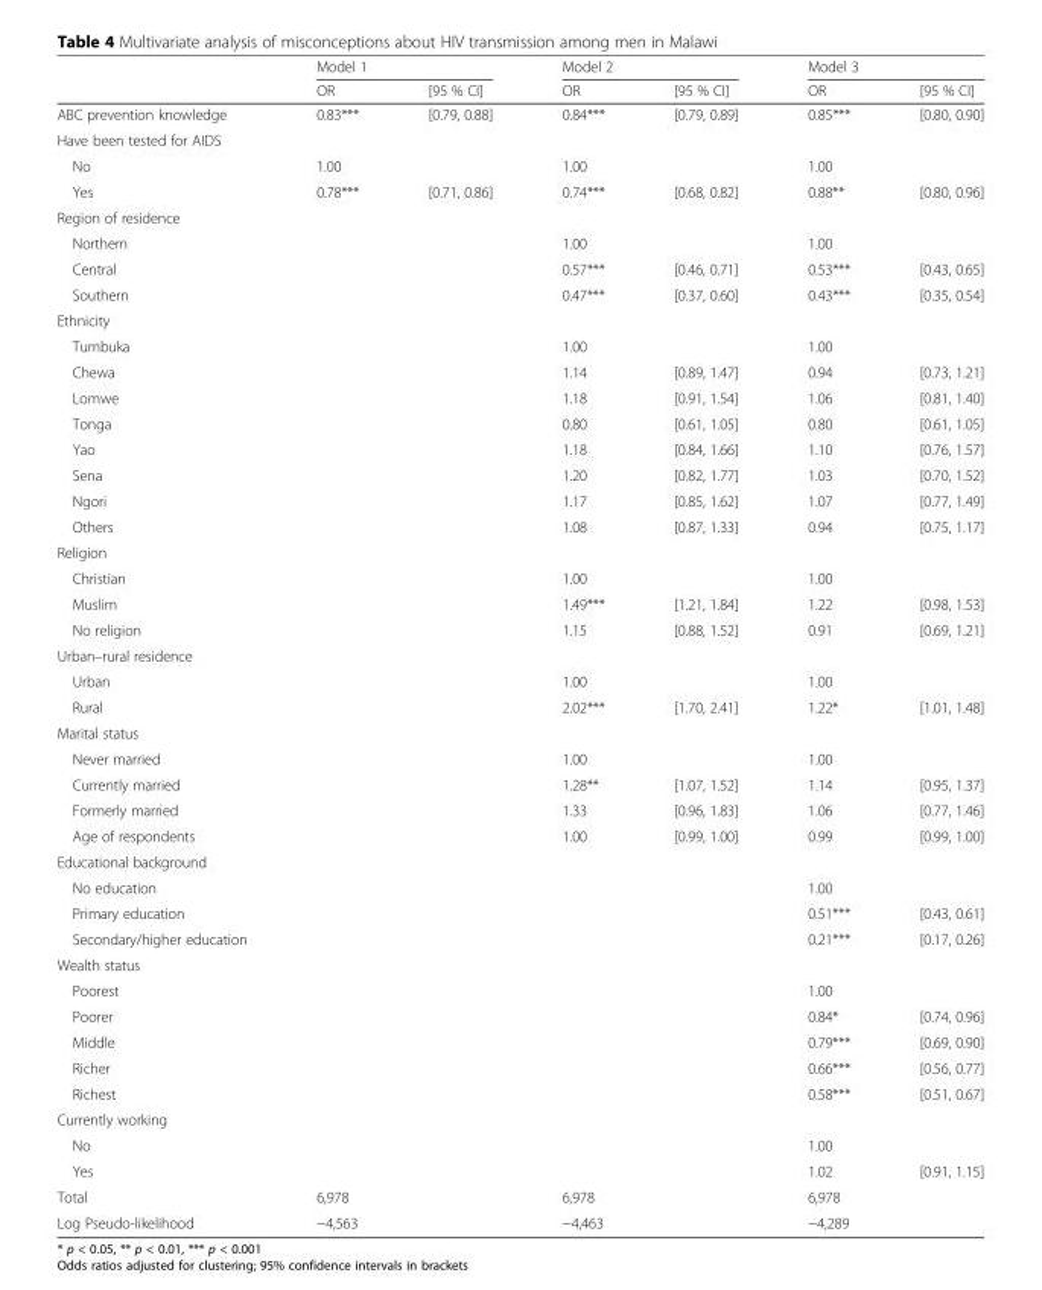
<table><thead><tr><td rowspan="2"></td><td colspan="2">Model 1</td><td colspan="2">Model 2</td><td colspan="2">Model 3</td></tr><tr><td>OR</td><td>[95 % CI]</td><td>OR</td><td>[95 % CI]</td><td>OR</td><td>[95 % CI]</td></tr></thead><tbody><tr><td>ABC prevention knowledge</td><td>0.83***</td><td>[0.79, 0.88]</td><td>0.84***</td><td>[0.79, 0.89]</td><td>0.85***</td><td>[0.80, 0.90]</td></tr><tr><td colspan="7">Have been tested for AIDS</td></tr><tr><td>No</td><td colspan="2">1.00</td><td colspan="2">1.00</td><td colspan="2">1.00</td></tr><tr><td>Yes</td><td>0.78***</td><td>[0.71, 0.86]</td><td>0.74***</td><td>[0.68, 0.82]</td><td>0.88**</td><td>[0.80, 0.96]</td></tr><tr><td colspan="7">Region of residence</td></tr><tr><td>Northern</td><td></td><td></td><td colspan="2">1.00</td><td colspan="2">1.00</td></tr><tr><td>Central</td><td></td><td></td><td>0.57***</td><td>[0.46, 0.71]</td><td>0.53***</td><td>[0.43, 0.65]</td></tr><tr><td>Southern</td><td></td><td></td><td>0.47***</td><td>[0.37, 0.60]</td><td>0.43***</td><td>[0.35, 0.54]</td></tr><tr><td colspan="7">Ethnicity</td></tr><tr><td>Tumbuka</td><td></td><td></td><td colspan="2">1.00</td><td colspan="2">1.00</td></tr><tr><td>Chewa</td><td></td><td></td><td>1.14</td><td>[0.89, 1.47]</td><td>0.94</td><td>[0.73, 1.21]</td></tr><tr><td>Lomwe</td><td></td><td></td><td>1.18</td><td>[0.91, 1.54]</td><td>1.06</td><td>[0.81, 1.40]</td></tr><tr><td>Tonga</td><td></td><td></td><td>0.80</td><td>[0.61, 1.05]</td><td>0.80</td><td>[0.61, 1.05]</td></tr><tr><td>Yao</td><td></td><td></td><td>1.18</td><td>[0.84, 1.66]</td><td>1.10</td><td>[0.76, 1.57]</td></tr><tr><td>Sena</td><td></td><td></td><td>1.20</td><td>[0.82, 1.77]</td><td>1.03</td><td>[0.70, 1.52]</td></tr><tr><td>Ngori</td><td></td><td></td><td>1.17</td><td>[0.85, 1.62]</td><td>1.07</td><td>[0.77, 1.49]</td></tr><tr><td>Others</td><td></td><td></td><td>1.08</td><td>[0.87, 1.33]</td><td>0.94</td><td>[0.75, 1.17]</td></tr><tr><td colspan="7">Religion</td></tr><tr><td>Christian</td><td></td><td></td><td colspan="2">1.00</td><td colspan="2">1.00</td></tr><tr><td>Muslim</td><td></td><td></td><td>1.49***</td><td>[1.21, 1.84]</td><td>1.22</td><td>[0.98, 1.53]</td></tr><tr><td>No religion</td><td></td><td></td><td>1.15</td><td>[0.88, 1.52]</td><td>0.91</td><td>[0.69, 1.21]</td></tr><tr><td colspan="7">Urban–rural residence</td></tr><tr><td>Urban</td><td></td><td></td><td colspan="2">1.00</td><td colspan="2">1.00</td></tr><tr><td>Rural</td><td></td><td></td><td>2.02***</td><td>[1.70, 2.41]</td><td>1.22*</td><td>[1.01, 1.48]</td></tr><tr><td colspan="7">Marital status</td></tr><tr><td>Never married</td><td></td><td></td><td colspan="2">1.00</td><td colspan="2">1.00</td></tr><tr><td>Currently married</td><td></td><td></td><td>1.28**</td><td>[1.07, 1.52]</td><td>1.14</td><td>[0.95, 1.37]</td></tr><tr><td>Formerly married</td><td></td><td></td><td>1.33</td><td>[0.96, 1.83]</td><td>1.06</td><td>[0.77, 1.46]</td></tr><tr><td>Age of respondents</td><td></td><td></td><td>1.00</td><td>[0.99, 1.00]</td><td>0.99</td><td>[0.99, 1.00]</td></tr><tr><td colspan="7">Educational background</td></tr><tr><td>No education</td><td></td><td></td><td></td><td></td><td>1.00</td><td></td></tr><tr><td>Primary education</td><td></td><td></td><td></td><td></td><td>0.51***</td><td>[0.43, 0.61]</td></tr><tr><td>Secondary/higher education</td><td></td><td></td><td></td><td></td><td>0.21***</td><td>[0.17, 0.26]</td></tr><tr><td colspan="7">Wealth status</td></tr><tr><td>Poorest</td><td></td><td></td><td></td><td></td><td>1.00</td><td></td></tr><tr><td>Poorer</td><td></td><td></td><td></td><td></td><td>0.84*</td><td>[0.74, 0.96]</td></tr><tr><td>Middle</td><td></td><td></td><td></td><td></td><td>0.79***</td><td>[0.69, 0.90]</td></tr><tr><td>Richer</td><td></td><td></td><td></td><td></td><td>0.66***</td><td>[0.56, 0.77]</td></tr><tr><td>Richest</td><td></td><td></td><td></td><td></td><td>0.58***</td><td>[0.51, 0.67]</td></tr><tr><td colspan="7">Currently working</td></tr><tr><td>No</td><td></td><td></td><td></td><td></td><td colspan="2">1.00</td></tr><tr><td>Yes</td><td></td><td></td><td></td><td></td><td>1.02</td><td>[0.91, 1.15]</td></tr><tr><td>Total</td><td>6,978</td><td></td><td>6,978</td><td></td><td>6,978</td><td></td></tr><tr><td>Log Pseudo-likelihood</td><td>−4,563</td><td></td><td>−4,463</td><td></td><td>−4,289</td><td></td></tr></tbody></table>